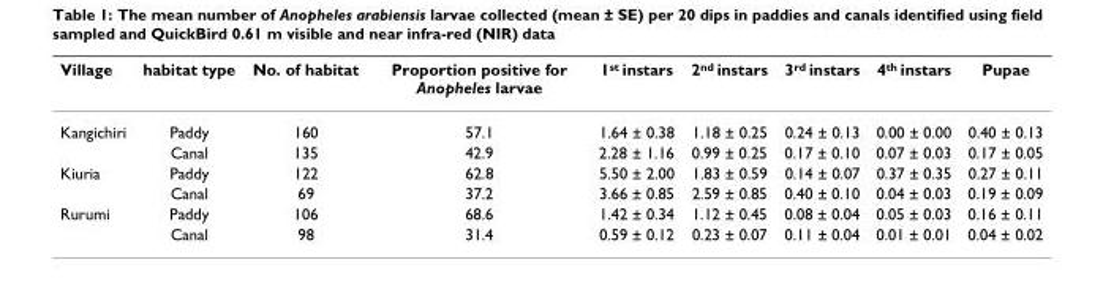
<table><thead><tr><td>Village</td><td>habitat type</td><td>No. of habitat</td><td>Proportion positive for Anopheles larvae</td><td>1<sup>st</sup> instars</td><td>2<sup>nd</sup> instars</td><td>3<sup>rd</sup> instars</td><td>4<sup>th</sup> instars</td><td>Pupae</td></tr></thead><tbody><tr><td rowspan="2">Kangichiri</td><td>Paddy</td><td>160</td><td>57.1</td><td>1.64 ± 0.38</td><td>1.18 ± 0.25</td><td>0.24 ± 0.13</td><td>0.00 ± 0.00</td><td>0.40 ± 0.13</td></tr><tr><td>Canal</td><td>135</td><td>42.9</td><td>2.28 ± 1.16</td><td>0.99 ± 0.25</td><td>0.17 ± 0.10</td><td>0.07 ± 0.03</td><td>0.17 ± 0.05</td></tr><tr><td rowspan="2">Kiuria</td><td>Paddy</td><td>122</td><td>62.8</td><td>5.50 ± 2.00</td><td>1.83 ± 0.59</td><td>0.14 ± 0.07</td><td>0.37 ± 0.35</td><td>0.27 ± 0.11</td></tr><tr><td>Canal</td><td>69</td><td>37.2</td><td>3.66 ± 0.85</td><td>2.59 ± 0.85</td><td>0.40 ± 0.10</td><td>0.04 ± 0.03</td><td>0.19 ± 0.09</td></tr><tr><td rowspan="2">Rurumi</td><td>Paddy</td><td>106</td><td>68.6</td><td>1.42 ± 0.34</td><td>1.12 ± 0.45</td><td>0.08 ± 0.04</td><td>0.05 ± 0.03</td><td>0.16 ± 0.11</td></tr><tr><td>Canal</td><td>98</td><td>31.4</td><td>0.59 ± 0.12</td><td>0.23 ± 0.07</td><td>0.11 ± 0.04</td><td>0.01 ± 0.01</td><td>0.04 ± 0.02</td></tr></tbody></table>